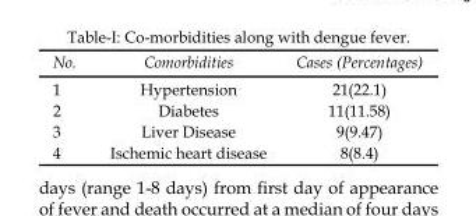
<table><thead><tr><td>No.</td><td>Comorbidities</td><td>Cases (Percentages)</td></tr></thead><tbody><tr><td>1</td><td>Hypertension</td><td>21(22.1)</td></tr><tr><td>2</td><td>Diabetes</td><td>11(11.58)</td></tr><tr><td>3</td><td>Liver Disease</td><td>9(9.47)</td></tr><tr><td>4</td><td>Ischemic heart disease</td><td>8(8.4)</td></tr></tbody></table>